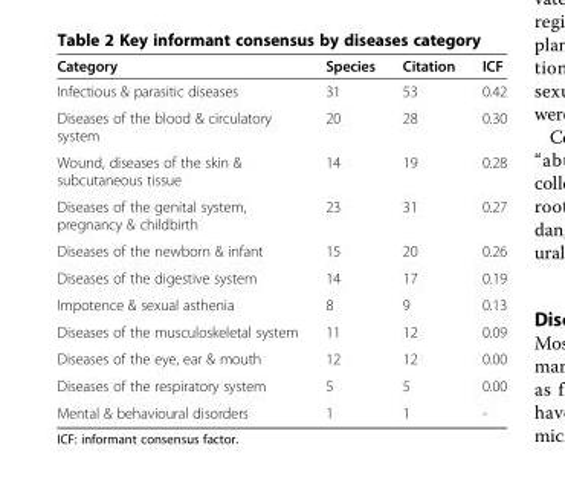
<table><thead><tr><td>Category</td><td>Species</td><td>Citation</td><td>ICF</td></tr></thead><tbody><tr><td>Infectious &amp; parasitic diseases</td><td>31</td><td>53</td><td>0.42</td></tr><tr><td>Diseases of the blood &amp; circulatory system</td><td>20</td><td>28</td><td>0.30</td></tr><tr><td>Wound, diseases of the skin &amp; subcutaneous tissue</td><td>14</td><td>19</td><td>0.28</td></tr><tr><td>Diseases of the genital system, pregnancy &amp; childbirth</td><td>23</td><td>31</td><td>0.27</td></tr><tr><td>Diseases of the newborn &amp; infant</td><td>15</td><td>20</td><td>0.26</td></tr><tr><td>Diseases of the digestive system</td><td>14</td><td>17</td><td>0.19</td></tr><tr><td>Impotence &amp; sexual asthenia</td><td>8</td><td>9</td><td>0.13</td></tr><tr><td>Diseases of the musculoskeletal system</td><td>11</td><td>12</td><td>0.09</td></tr><tr><td>Diseases of the eye, ear &amp; mouth</td><td>12</td><td>12</td><td>0.00</td></tr><tr><td>Diseases of the respiratory system</td><td>5</td><td>5</td><td>0.00</td></tr><tr><td>Mental &amp; behavioural disorders</td><td>1</td><td>1</td><td>-</td></tr></tbody></table>